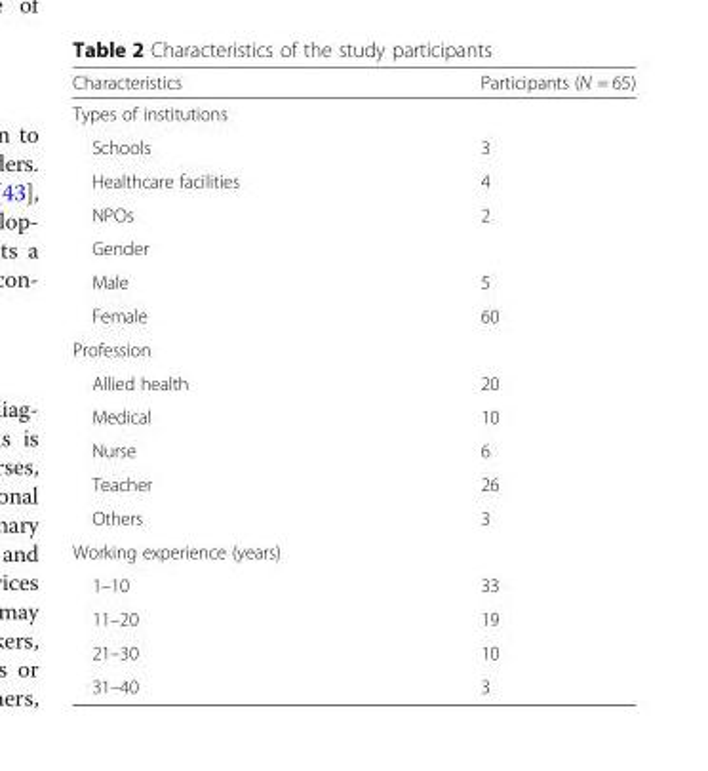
<table><thead><tr><td>Characteristics</td><td>Participants (N = 65)</td></tr></thead><tbody><tr><td colspan="2">Types of institutions</td></tr><tr><td>Schools</td><td>3</td></tr><tr><td>Healthcare facilities</td><td>4</td></tr><tr><td>NPOs</td><td>2</td></tr><tr><td colspan="2">Gender</td></tr><tr><td>Male</td><td>5</td></tr><tr><td>Female</td><td>60</td></tr><tr><td colspan="2">Profession</td></tr><tr><td>Allied health</td><td>20</td></tr><tr><td>Medical</td><td>10</td></tr><tr><td>Nurse</td><td>6</td></tr><tr><td>Teacher</td><td>26</td></tr><tr><td>Others</td><td>3</td></tr><tr><td colspan="2">Working experience (years)</td></tr><tr><td>1–10</td><td>33</td></tr><tr><td>11–20</td><td>19</td></tr><tr><td>21–30</td><td>10</td></tr><tr><td>31–40</td><td>3</td></tr></tbody></table>